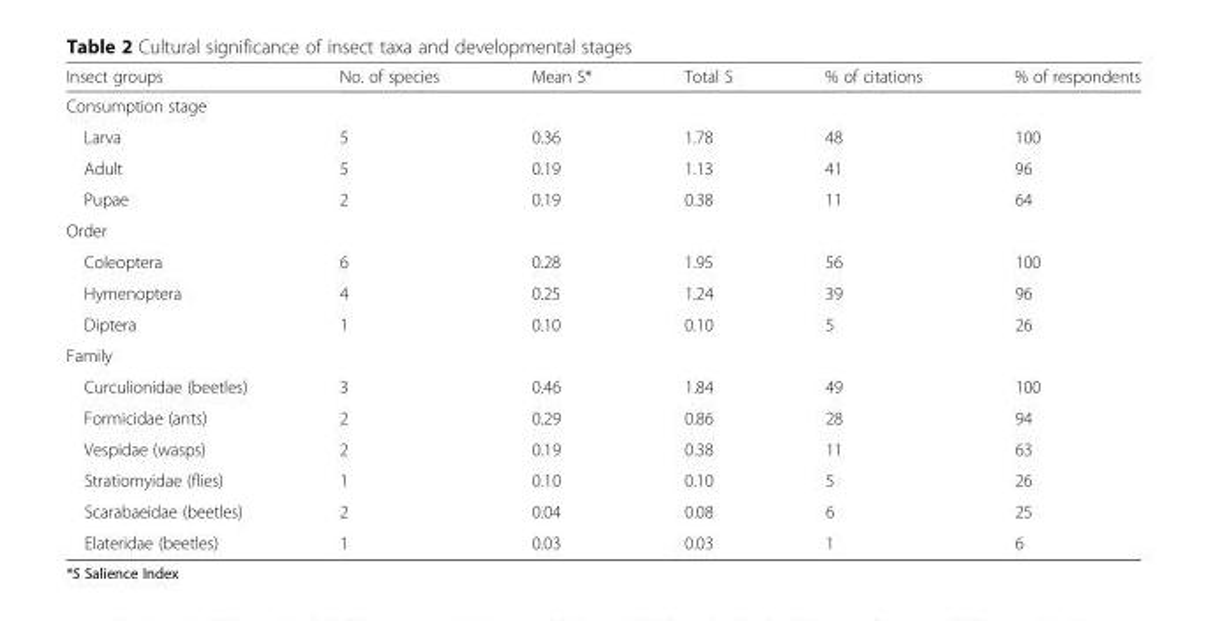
<table><thead><tr><td>Insect groups</td><td>No. of species</td><td>Mean S*</td><td>Total S</td><td>% of citations</td><td>% of respondents</td></tr></thead><tbody><tr><td colspan="6">Consumption stage</td></tr><tr><td>Larva</td><td>5</td><td>0.36</td><td>1.78</td><td>48</td><td>100</td></tr><tr><td>Adult</td><td>5</td><td>0.19</td><td>1.13</td><td>41</td><td>96</td></tr><tr><td>Pupae</td><td>2</td><td>0.19</td><td>0.38</td><td>11</td><td>64</td></tr><tr><td colspan="6">Order</td></tr><tr><td>Coleoptera</td><td>6</td><td>0.28</td><td>1.95</td><td>56</td><td>100</td></tr><tr><td>Hymenoptera</td><td>4</td><td>0.25</td><td>1.24</td><td>39</td><td>96</td></tr><tr><td>Diptera</td><td>1</td><td>0.10</td><td>0.10</td><td>5</td><td>26</td></tr><tr><td colspan="6">Family</td></tr><tr><td>Curculionidae (beetles)</td><td>3</td><td>0.46</td><td>1.84</td><td>49</td><td>100</td></tr><tr><td>Formicidae (ants)</td><td>2</td><td>0.29</td><td>0.86</td><td>28</td><td>94</td></tr><tr><td>Vespidae (wasps)</td><td>2</td><td>0.19</td><td>0.38</td><td>11</td><td>63</td></tr><tr><td>Stratiomyidae (flies)</td><td>1</td><td>0.10</td><td>0.10</td><td>5</td><td>26</td></tr><tr><td>Scarabaeidae (beetles)</td><td>2</td><td>0.04</td><td>0.08</td><td>6</td><td>25</td></tr><tr><td>Elateridae (beetles)</td><td>1</td><td>0.03</td><td>0.03</td><td>1</td><td>6</td></tr></tbody></table>